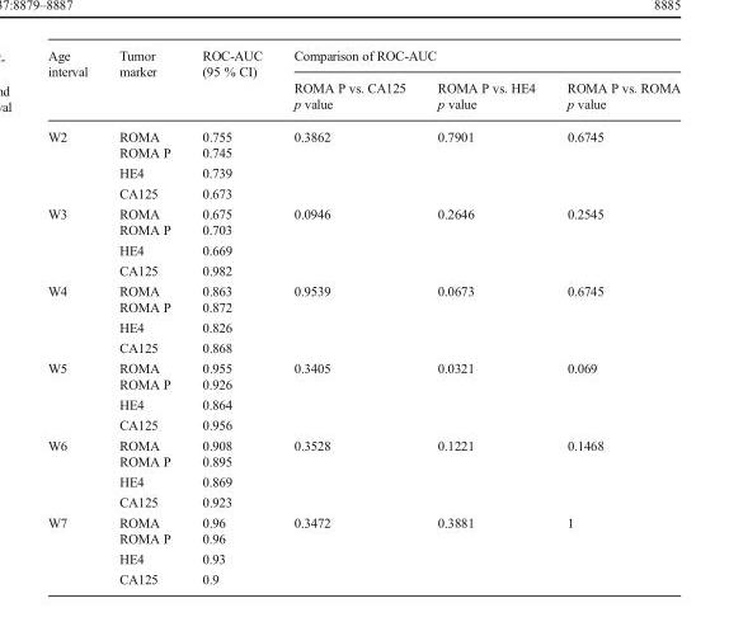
<table><thead><tr><td rowspan="2">Age interval</td><td rowspan="2">Tumor marker</td><td rowspan="2">ROC-AUC (95 % CI)</td><td colspan="3">Comparison of ROC-AUC</td></tr><tr><td>ROMA P vs. CA125 p value</td><td>ROMA P vs. HE4 p value</td><td>ROMA P vs. ROMA p value</td></tr></thead><tbody><tr><td rowspan="4">W2</td><td>ROMA</td><td>0.755</td><td rowspan="4">0.3862</td><td rowspan="4">0.7901</td><td rowspan="4">0.6745</td></tr><tr><td>ROMA P</td><td>0.745</td></tr><tr><td>HE4</td><td>0.739</td></tr><tr><td>CA125</td><td>0.673</td></tr><tr><td rowspan="4">W3</td><td>ROMA</td><td>0.675</td><td rowspan="4">0.0946</td><td rowspan="4">0.2646</td><td rowspan="4">0.2545</td></tr><tr><td>ROMA P</td><td>0.703</td></tr><tr><td>HE4</td><td>0.669</td></tr><tr><td>CA125</td><td>0.982</td></tr><tr><td rowspan="4">W4</td><td>ROMA</td><td>0.863</td><td rowspan="4">0.9539</td><td rowspan="4">0.0673</td><td rowspan="4">0.6745</td></tr><tr><td>ROMA P</td><td>0.872</td></tr><tr><td>HE4</td><td>0.826</td></tr><tr><td>CA125</td><td>0.868</td></tr><tr><td rowspan="4">W5</td><td>ROMA</td><td>0.955</td><td rowspan="4">0.3405</td><td rowspan="4">0.0321</td><td rowspan="4">0.069</td></tr><tr><td>ROMA P</td><td>0.926</td></tr><tr><td>HE4</td><td>0.864</td></tr><tr><td>CA125</td><td>0.956</td></tr><tr><td rowspan="4">W6</td><td>ROMA</td><td>0.908</td><td rowspan="4">0.3528</td><td rowspan="4">0.1221</td><td rowspan="4">0.1468</td></tr><tr><td>ROMA P</td><td>0.895</td></tr><tr><td>HE4</td><td>0.869</td></tr><tr><td>CA125</td><td>0.923</td></tr><tr><td rowspan="4">W7</td><td>ROMA</td><td>0.96</td><td rowspan="4">0.3472</td><td rowspan="4">0.3881</td><td rowspan="4">1</td></tr><tr><td>ROMA P</td><td>0.96</td></tr><tr><td>HE4</td><td>0.93</td></tr><tr><td>CA125</td><td>0.9</td></tr></tbody></table>